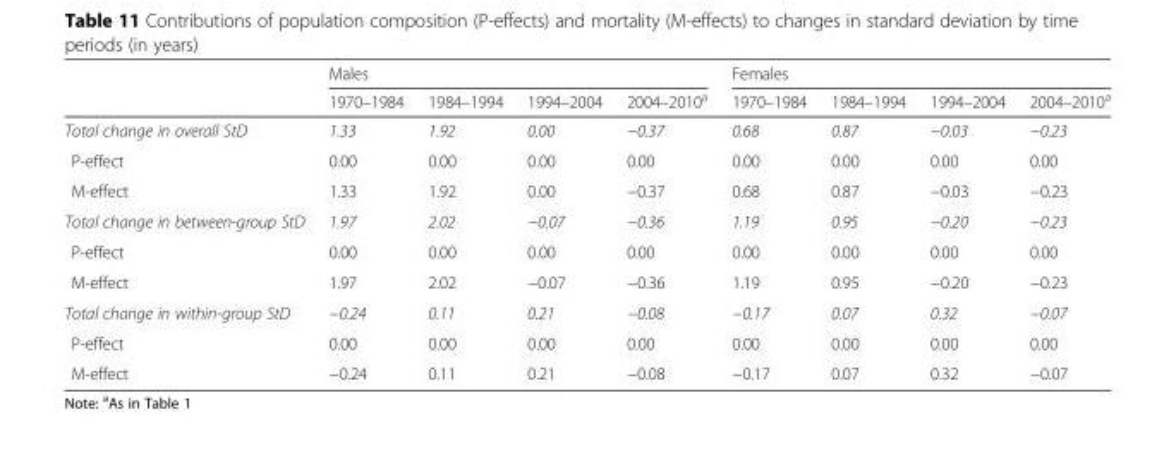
<table><thead><tr><td rowspan="2"></td><td colspan="4">Males</td><td colspan="4">Females</td></tr><tr><td>1970–1984</td><td>1984–1994</td><td>1994–2004</td><td>2004–2010<sup>a</sup></td><td>1970–1984</td><td>1984–1994</td><td>1994–2004</td><td>2004–2010<sup>a</sup></td></tr></thead><tbody><tr><td>Total change in overall StD</td><td>1.33</td><td>1.92</td><td>0.00</td><td>−0.37</td><td>0.68</td><td>0.87</td><td>−0.03</td><td>−0.23</td></tr><tr><td>P-effect</td><td>0.00</td><td>0.00</td><td>0.00</td><td>0.00</td><td>0.00</td><td>0.00</td><td>0.00</td><td>0.00</td></tr><tr><td>M-effect</td><td>1.33</td><td>1.92</td><td>0.00</td><td>−0.37</td><td>0.68</td><td>0.87</td><td>−0.03</td><td>−0.23</td></tr><tr><td>Total change in between-group StD</td><td>1.97</td><td>2.02</td><td>−0.07</td><td>−0.36</td><td>1.19</td><td>0.95</td><td>−0.20</td><td>−0.23</td></tr><tr><td>P-effect</td><td>0.00</td><td>0.00</td><td>0.00</td><td>0.00</td><td>0.00</td><td>0.00</td><td>0.00</td><td>0.00</td></tr><tr><td>M-effect</td><td>1.97</td><td>2.02</td><td>−0.07</td><td>−0.36</td><td>1.19</td><td>0.95</td><td>−0.20</td><td>−0.23</td></tr><tr><td>Total change in within-group StD</td><td>−0.24</td><td>0.11</td><td>0.21</td><td>−0.08</td><td>−0.17</td><td>0.07</td><td>0.32</td><td>−0.07</td></tr><tr><td>P-effect</td><td>0.00</td><td>0.00</td><td>0.00</td><td>0.00</td><td>0.00</td><td>0.00</td><td>0.00</td><td>0.00</td></tr><tr><td>M-effect</td><td>−0.24</td><td>0.11</td><td>0.21</td><td>−0.08</td><td>−0.17</td><td>0.07</td><td>0.32</td><td>−0.07</td></tr></tbody></table>